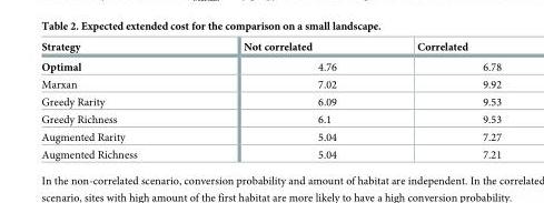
<table><thead><tr><td>Strategy</td><td>Not correlated</td><td>Correlated</td></tr></thead><tbody><tr><td>Optimal</td><td>4.76</td><td>6.78</td></tr><tr><td>Marxan</td><td>7.02</td><td>9.92</td></tr><tr><td>Greedy Rarity</td><td>6.09</td><td>9.53</td></tr><tr><td>Greedy Richness</td><td>6.1</td><td>9.53</td></tr><tr><td>Augmented Rarity</td><td>5.04</td><td>7.27</td></tr><tr><td>Augmented Richness</td><td>5.04</td><td>7.21</td></tr></tbody></table>